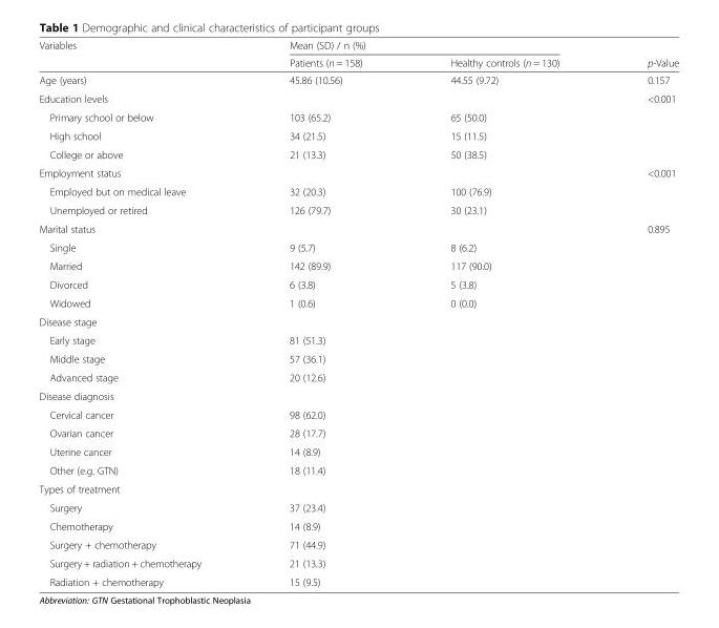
<table><thead><tr><td rowspan="2">Variables</td><td colspan="2">Mean (SD) / n (%)</td><td rowspan="2">p-Value</td></tr><tr><td>Patients (n = 158)</td><td>Healthy controls (n = 130)</td></tr></thead><tbody><tr><td>Age (years)</td><td>45.86 (10.56)</td><td>44.55 (9.72)</td><td>0.157</td></tr><tr><td>Education levels</td><td></td><td></td><td>&lt;0.001</td></tr><tr><td>Primary school or below</td><td>103 (65.2)</td><td>65 (50.0)</td><td></td></tr><tr><td>High school</td><td>34 (21.5)</td><td>15 (11.5)</td><td></td></tr><tr><td>College or above</td><td>21 (13.3)</td><td>50 (38.5)</td><td></td></tr><tr><td>Employment status</td><td></td><td></td><td>&lt;0.001</td></tr><tr><td>Employed but on medical leave</td><td>32 (20.3)</td><td>100 (76.9)</td><td></td></tr><tr><td>Unemployed or retired</td><td>126 (79.7)</td><td>30 (23.1)</td><td></td></tr><tr><td>Marital status</td><td></td><td></td><td>0.895</td></tr><tr><td>Single</td><td>9 (5.7)</td><td>8 (6.2)</td><td></td></tr><tr><td>Married</td><td>142 (89.9)</td><td>117 (90.0)</td><td></td></tr><tr><td>Divorced</td><td>6 (3.8)</td><td>5 (3.8)</td><td></td></tr><tr><td>Widowed</td><td>1 (0.6)</td><td>0 (0.0)</td><td></td></tr><tr><td colspan="4">Disease stage</td></tr><tr><td>Early stage</td><td>81 (51.3)</td><td></td><td></td></tr><tr><td>Middle stage</td><td>57 (36.1)</td><td></td><td></td></tr><tr><td>Advanced stage</td><td>20 (12.6)</td><td></td><td></td></tr><tr><td colspan="4">Disease diagnosis</td></tr><tr><td>Cervical cancer</td><td>98 (62.0)</td><td></td><td></td></tr><tr><td>Ovarian cancer</td><td>28 (17.7)</td><td></td><td></td></tr><tr><td>Uterine cancer</td><td>14 (8.9)</td><td></td><td></td></tr><tr><td>Other (e.g. GTN)</td><td>18 (11.4)</td><td></td><td></td></tr><tr><td colspan="4">Types of treatment</td></tr><tr><td>Surgery</td><td>37 (23.4)</td><td></td><td></td></tr><tr><td>Chemotherapy</td><td>14 (8.9)</td><td></td><td></td></tr><tr><td>Surgery + chemotherapy</td><td>71 (44.9)</td><td></td><td></td></tr><tr><td>Surgery + radiation + chemotherapy</td><td>21 (13.3)</td><td></td><td></td></tr><tr><td>Radiation + chemotherapy</td><td>15 (9.5)</td><td></td><td></td></tr></tbody></table>